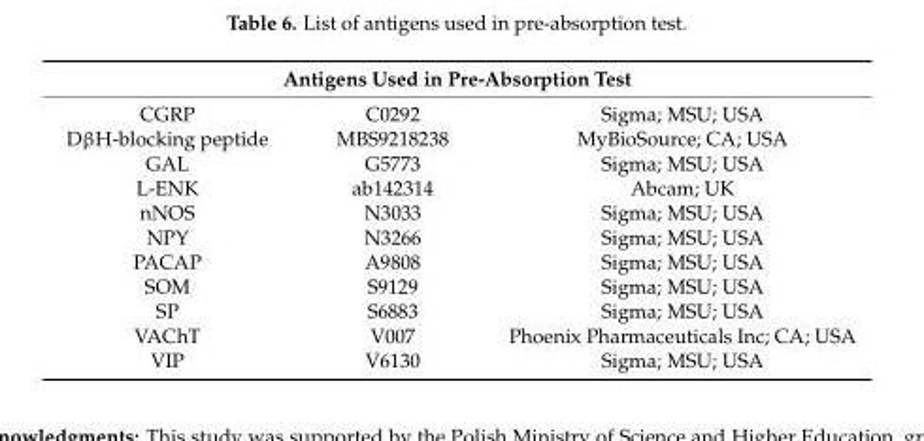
<table><thead><tr><td colspan="3">Antigens Used in Pre-Absorption Test</td></tr><tr><td>CGRP</td><td>C0292</td><td>Sigma; MSU; USA</td></tr></thead><tbody><tr><td>DβH-blocking peptide</td><td>MBS9218238</td><td>MyBioSource; CA; USA</td></tr><tr><td>GAL</td><td>G5773</td><td>Sigma; MSU; USA</td></tr><tr><td>L-ENK</td><td>ab142314</td><td>Abcam; UK</td></tr><tr><td>nNOS</td><td>N3033</td><td>Sigma; MSU; USA</td></tr><tr><td>NPY</td><td>N3266</td><td>Sigma; MSU; USA</td></tr><tr><td>PACAP</td><td>A9808</td><td>Sigma; MSU; USA</td></tr><tr><td>SOM</td><td>S9129</td><td>Sigma; MSU; USA</td></tr><tr><td>SP</td><td>S6883</td><td>Sigma; MSU; USA</td></tr><tr><td>VAChT</td><td>V007</td><td>Phoenix Pharmaceuticals Inc; CA; USA</td></tr><tr><td>VIP</td><td>V6130</td><td>Sigma; MSU; USA</td></tr></tbody></table>